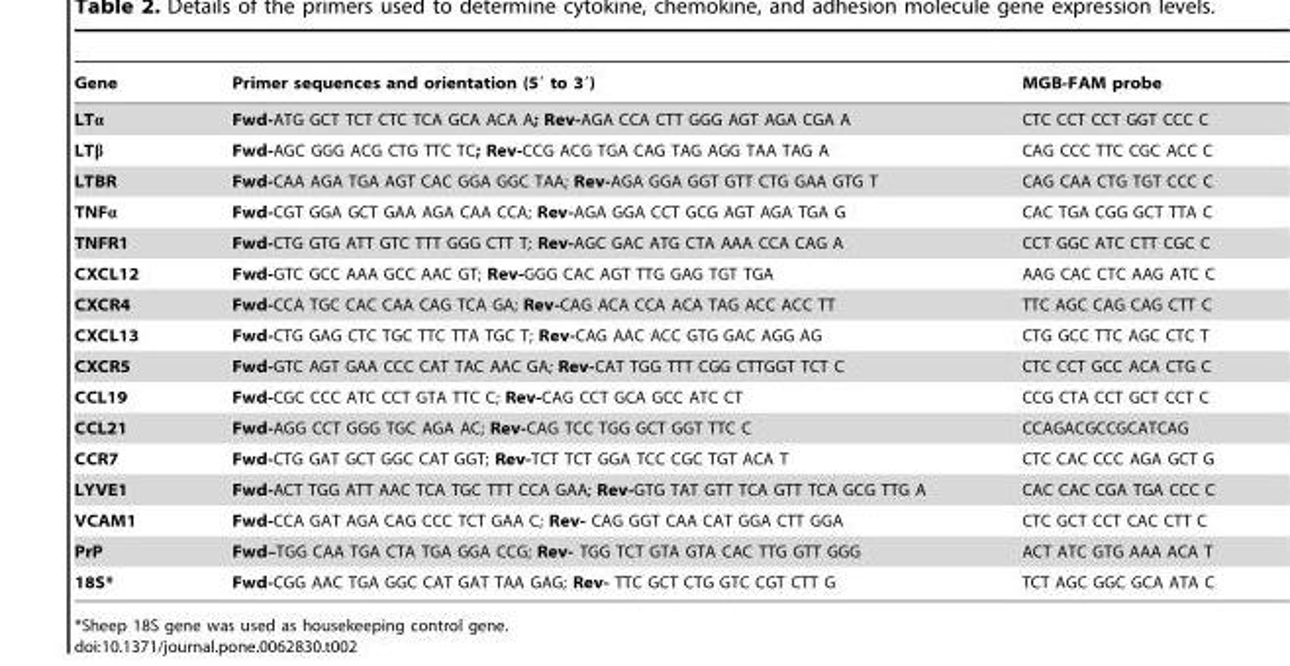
<table><thead><tr><td>Gene</td><td>Primer sequences and orientation (5′ to 3′)</td><td>MGB-FAM probe</td></tr></thead><tbody><tr><td>LTα</td><td>Fwd-ATG GCT TCT CTC TCA GCA ACA A; Rev-AGA CCA CTT GGG AGT AGA CGA A</td><td>CTC CCT CCT GGT CCC C</td></tr><tr><td>LTβ</td><td>Fwd-AGC GGG ACG CTG TTC TC; Rev-CCG ACG TGA CAG TAG AGG TAA TAG A</td><td>CAG CCC TTC CGC ACC C</td></tr><tr><td>LTBR</td><td>Fwd-CAA AGA TGA AGT CAC GGA GGC TAA; Rev-AGA GGA GGT GTT CTG GAA GTG T</td><td>CAG CAA CTG TGT CCC C</td></tr><tr><td>TNFα</td><td>Fwd-CGT GGA GCT GAA AGA CAA CCA; Rev-AGA GGA CCT GCG AGT AGA TGA G</td><td>CAC TGA CGG GCT TTA C</td></tr><tr><td>TNFR1</td><td>Fwd-CTG GTG ATT GTC TTT GGG CTT T; Rev-AGC GAC ATG CTA AAA CCA CAG A</td><td>CCT GGC ATC CTT CGC C</td></tr><tr><td>CXCL12</td><td>Fwd-GTC GCC AAA GCC AAC GT; Rev-GGG CAC AGT TTG GAG TGT TGA</td><td>AAG CAC CTC AAG ATC C</td></tr><tr><td>CXCR4</td><td>Fwd-CCA TGC CAC CAA CAG TCA GA; Rev-CAG ACA CCA ACA TAG ACC ACC TT</td><td>TTC AGC CAG CAG CTT C</td></tr><tr><td>CXCL13</td><td>Fwd-CTG GAG CTC TGC TTC TTA TGC T; Rev-CAG AAC ACC GTG GAC AGG AG</td><td>CTG GCC TTC AGC CTC T</td></tr><tr><td>CXCR5</td><td>Fwd-GTC AGT GAA CCC CAT TAC AAC GA; Rev-CAT TGG TTT CGG CTTGGT TCT C</td><td>CTC CCT GCC ACA CTG C</td></tr><tr><td>CCL19</td><td>Fwd-CGC CCC ATC CCT GTA TTC C; Rev-CAG CCT GCA GCC ATC CT</td><td>CCG CTA CCT GCT CCT C</td></tr><tr><td>CCL21</td><td>Fwd-AGG CCT GGG TGC AGA AC; Rev-CAG TCC TGG GCT GGT TTC C</td><td>CCAGACGCCGCATCAG</td></tr><tr><td>CCR7</td><td>Fwd-CTG GAT GCT GGC CAT GGT; Rev-TCT TCT GGA TCC CGC TGT ACA T</td><td>CTC CAC CCC AGA GCT G</td></tr><tr><td>LYVE1</td><td>Fwd-ACT TGG ATT AAC TCA TGC TTT CCA GAA; Rev-GTG TAT GTT TCA GTT TCA GCG TTG A</td><td>CAC CAC CGA TGA CCC C</td></tr><tr><td>VCAM1</td><td>Fwd-CCA GAT AGA CAG CCC TCT GAA C; Rev- CAG GGT CAA CAT GGA CTT GGA</td><td>CTC GCT CCT CAC CTT C</td></tr><tr><td>PrP</td><td>Fwd–TGG CAA TGA CTA TGA GGA CCG; Rev- TGG TCT GTA GTA CAC TTG GTT GGG</td><td>ACT ATC GTG AAA ACA T</td></tr><tr><td>18S*</td><td>Fwd-CGG AAC TGA GGC CAT GAT TAA GAG; Rev- TTC GCT CTG GTC CGT CTT G</td><td>TCT AGC GGC GCA ATA C</td></tr></tbody></table>